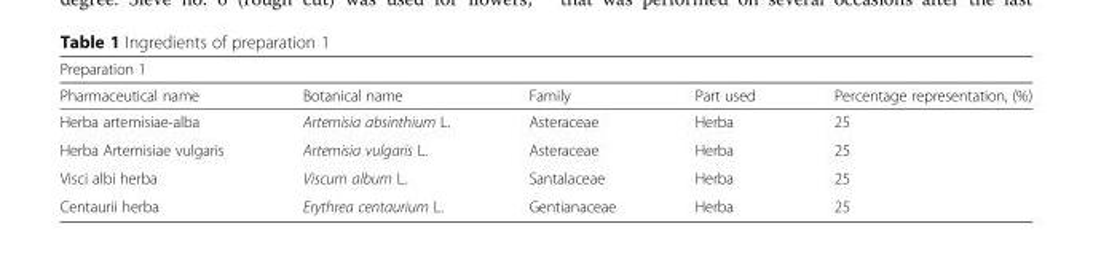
<table><thead><tr><td colspan="5">Preparation 1</td></tr><tr><td>Pharmaceutical name</td><td>Botanical name</td><td>Family</td><td>Part used</td><td>Percentage representation, (%)</td></tr></thead><tbody><tr><td>Herba artemisiae-alba</td><td>Artemisia absinthium L.</td><td>Asteraceae</td><td>Herba</td><td>25</td></tr><tr><td>Herba Artemisiae vulgaris</td><td>Artemisia vulgaris L.</td><td>Asteraceae</td><td>Herba</td><td>25</td></tr><tr><td>Visci albi herba</td><td>Viscum album L.</td><td>Santalaceae</td><td>Herba</td><td>25</td></tr><tr><td>Centaurii herba</td><td>Erythrea centaurium L.</td><td>Gentianaceae</td><td>Herba</td><td>25</td></tr></tbody></table>